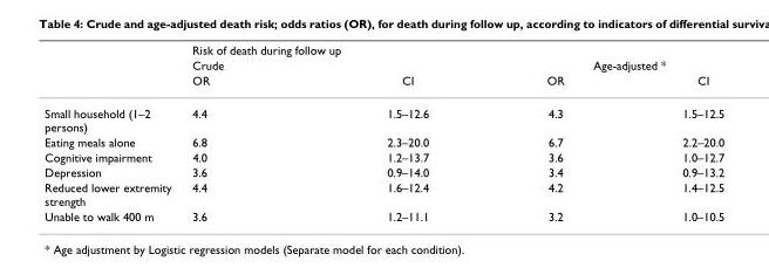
<table><thead><tr><td rowspan="3"></td><td colspan="4">Risk of death during follow up</td></tr><tr><td rowspan="2">Crude OR</td><td rowspan="2">CI</td><td colspan="2">Age-adjusted *</td></tr><tr><td>OR</td><td>CI</td></tr></thead><tbody><tr><td>Small household (1–2 persons)</td><td>4.4</td><td>1.5–12.6</td><td>4.3</td><td>1.5–12.5</td></tr><tr><td>Eating meals alone</td><td>6.8</td><td>2.3–20.0</td><td>6.7</td><td>2.2–20.0</td></tr><tr><td>Cognitive impairment</td><td>4.0</td><td>1.2–13.7</td><td>3.6</td><td>1.0–12.7</td></tr><tr><td>Depression</td><td>3.6</td><td>0.9–14.0</td><td>3.4</td><td>0.9–13.2</td></tr><tr><td>Reduced lower extremity strength</td><td>4.4</td><td>1.6–12.4</td><td>4.2</td><td>1.4–12.5</td></tr><tr><td>Unable to walk 400 m</td><td>3.6</td><td>1.2–11.1</td><td>3.2</td><td>1.0–10.5</td></tr></tbody></table>